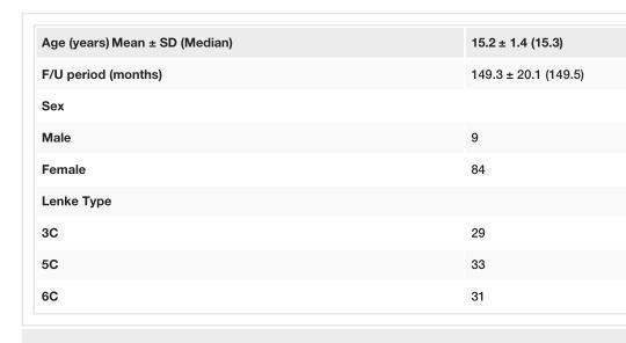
<table><tbody><tr><td>Age (years) Mean ± SD (Median)</td><td>15.2 ± 1.4 (15.3)</td></tr><tr><td>F/U period (months)</td><td>149.3 ± 20.1 (149.5)</td></tr><tr><td colspan="2">Sex</td></tr><tr><td>Male</td><td>9</td></tr><tr><td>Female</td><td>84</td></tr><tr><td colspan="2">Lenke Type</td></tr><tr><td>3C</td><td>29</td></tr><tr><td>5C</td><td>33</td></tr><tr><td>6C</td><td>31</td></tr></tbody></table>